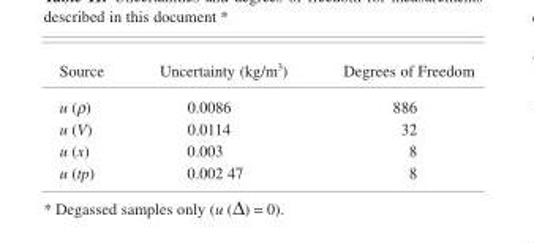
<table><thead><tr><td>Source</td><td>Uncertainty (kg/m<sup>3</sup>)</td><td>Degrees of Freedom</td></tr></thead><tbody><tr><td>u (ρ)</td><td>0.0086</td><td>886</td></tr><tr><td>u (V)</td><td>0.0114</td><td>32</td></tr><tr><td>u (x)</td><td>0.003</td><td>8</td></tr><tr><td>u (tp)</td><td>0.002 47</td><td>8</td></tr></tbody></table>